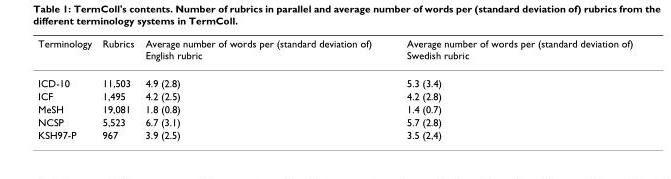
<table><thead><tr><td>Terminology</td><td>Rubrics</td><td>Average number of words per (standard deviation of) English rubric</td><td>Average number of words per (standard deviation of) Swedish rubric</td></tr></thead><tbody><tr><td>ICD-10</td><td>11,503</td><td>4.9 (2.8)</td><td>5.3 (3.4)</td></tr><tr><td>ICF</td><td>1,495</td><td>4.2 (2.5)</td><td>4.2 (2.8)</td></tr><tr><td>MeSH</td><td>19,081</td><td>1.8 (0.8)</td><td>1.4 (0.7)</td></tr><tr><td>NCSP</td><td>5,523</td><td>6.7 (3.1)</td><td>5.7 (2.8)</td></tr><tr><td>KSH97-P</td><td>967</td><td>3.9 (2.5)</td><td>3.5 (2,4)</td></tr></tbody></table>